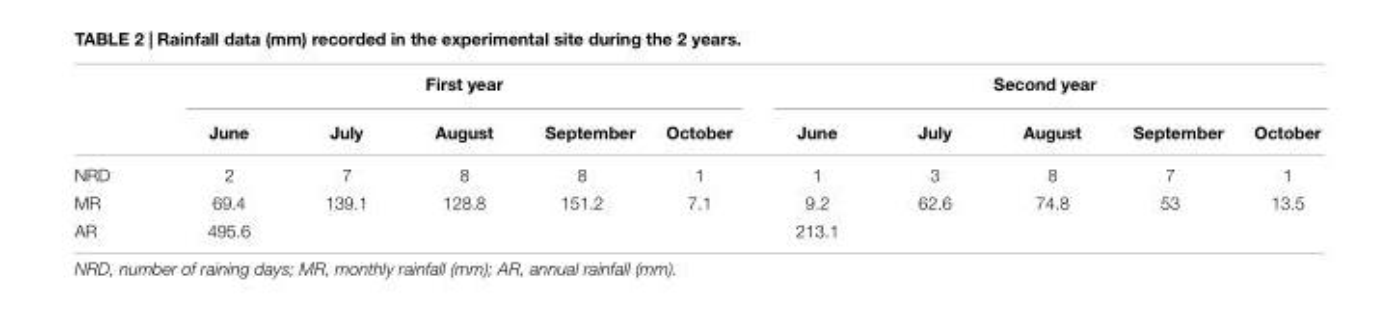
<table><thead><tr><td rowspan="2"></td><td colspan="5">First year</td><td colspan="5">Second year</td></tr><tr><td>June</td><td>July</td><td>August</td><td>September</td><td>October</td><td>June</td><td>July</td><td>August</td><td>September</td><td>October</td></tr></thead><tbody><tr><td>NRD</td><td>2</td><td>7</td><td>8</td><td>8</td><td>1</td><td>1</td><td>3</td><td>8</td><td>7</td><td>1</td></tr><tr><td>MR</td><td>69.4</td><td>139.1</td><td>128.8</td><td>151.2</td><td>7.1</td><td>9.2</td><td>62.6</td><td>74.8</td><td>53</td><td>13.5</td></tr><tr><td>AR</td><td>495.6</td><td></td><td></td><td></td><td></td><td>213.1</td><td></td><td></td><td></td><td></td></tr></tbody></table>